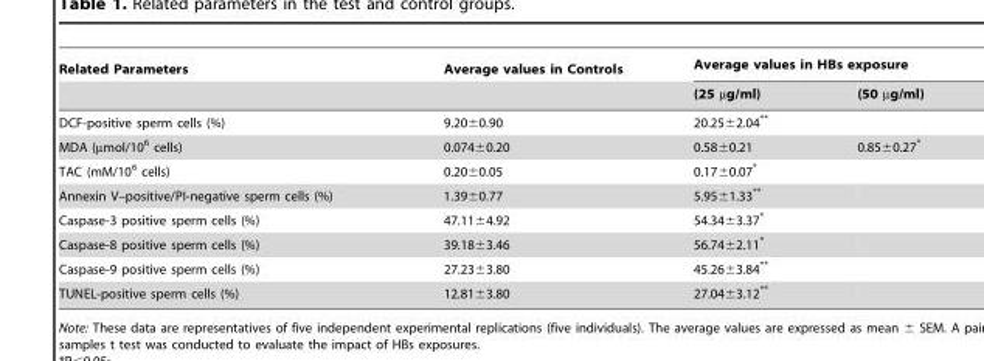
<table><thead><tr><td rowspan="2">Related Parameters</td><td rowspan="2">Average values in Controls</td><td colspan="2">Average values in HBs exposure</td></tr><tr><td>(25 µg/ml)</td><td>(50 µg/ml)</td></tr></thead><tbody><tr><td>DCF-positive sperm cells (%)</td><td>9.20±0.90</td><td>20.25±2.04**</td><td></td></tr><tr><td>MDA (µmol/10<sup>6</sup> cells)</td><td>0.074±0.20</td><td>0.58±0.21</td><td>0.85±0.27*</td></tr><tr><td>TAC (mM/10<sup>6</sup> cells)</td><td>0.20±0.05</td><td>0.17±0.07*</td><td></td></tr><tr><td>Annexin V–positive/PI-negative sperm cells (%)</td><td>1.39±0.77</td><td>5.95±1.33**</td><td></td></tr><tr><td>Caspase-3 positive sperm cells (%)</td><td>47.11±4.92</td><td>54.34±3.37*</td><td></td></tr><tr><td>Caspase-8 positive sperm cells (%)</td><td>39.18±3.46</td><td>56.74±2.11*</td><td></td></tr><tr><td>Caspase-9 positive sperm cells (%)</td><td>27.23±3.80</td><td>45.26±3.84**</td><td></td></tr><tr><td>TUNEL-positive sperm cells (%)</td><td>12.81±3.80</td><td>27.04±3.12**</td><td></td></tr></tbody></table>